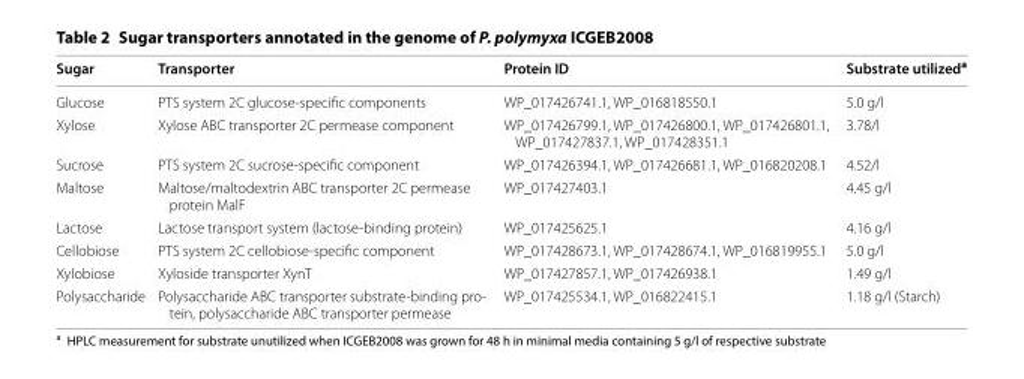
<table><thead><tr><td>Sugar</td><td>Transporter</td><td>Protein ID</td><td>Substrate utilized<sup>a</sup></td></tr></thead><tbody><tr><td>Glucose</td><td>PTS system 2C glucose-specific components</td><td>WP_017426741.1, WP_016818550.1</td><td>5.0 g/l</td></tr><tr><td>Xylose</td><td>Xylose ABC transporter 2C permease component</td><td>WP_017426799.1, WP_017426800.1, WP_017426801.1, WP_017427837.1, WP_017428351.1</td><td>3.78/l</td></tr><tr><td>Sucrose</td><td>PTS system 2C sucrose-specific component</td><td>WP_017426394.1, WP_017426681.1, WP_016820208.1</td><td>4.52/l</td></tr><tr><td>Maltose</td><td>Maltose/maltodextrin ABC transporter 2C permease protein MalF</td><td>WP_017427403.1</td><td>4.45 g/l</td></tr><tr><td>Lactose</td><td>Lactose transport system (lactose-binding protein)</td><td>WP_017425625.1</td><td>4.16 g/l</td></tr><tr><td>Cellobiose</td><td>PTS system 2C cellobiose-specific component</td><td>WP_017428673.1, WP_017428674.1, WP_016819955.1</td><td>5.0 g/l</td></tr><tr><td>Xylobiose</td><td>Xyloside transporter XynT</td><td>WP_017427857.1, WP_017426938.1</td><td>1.49 g/l</td></tr><tr><td>Polysaccharide</td><td>Polysaccharide ABC transporter substrate-binding pro- tein, polysaccharide ABC transporter permease</td><td>WP_017425534.1, WP_016822415.1</td><td>1.18 g/l (Starch)</td></tr></tbody></table>